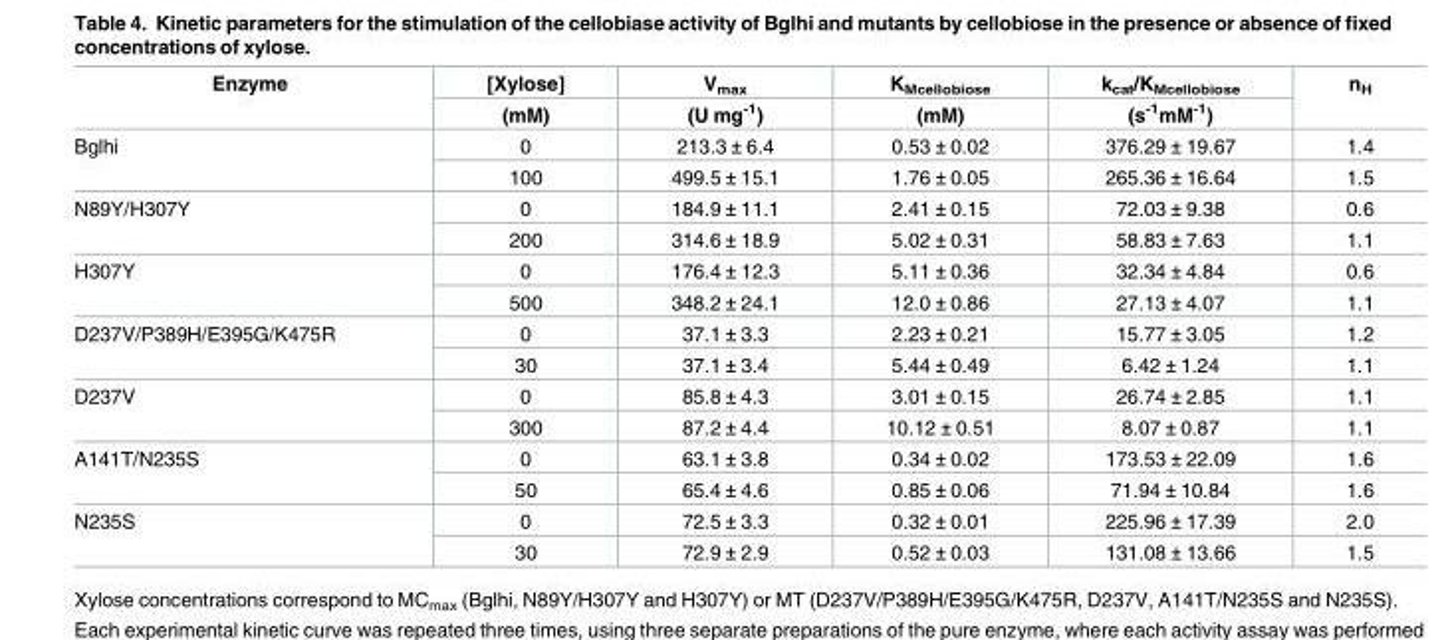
<table><thead><tr><td rowspan="2">Enzyme</td><td rowspan="2">[Xylose] (mM)</td><td rowspan="2">V<sub>max</sub> (U mg<sup>-1</sup>)</td><td rowspan="2">K<sub>Mcellobiose</sub> (mM)</td><td rowspan="2">k<sub>cat</sub>/K<sub>Mcellobiose</sub> (s<sup>-1</sup>mM<sup>-1</sup>)</td><td rowspan="2">n<sub>H</sub></td></tr><tr></tr></thead><tbody><tr><td rowspan="2">Bglhi</td><td>0</td><td>213.3 ± 6.4</td><td>0.53 ± 0.02</td><td>376.29 ± 19.67</td><td>1.4</td></tr><tr><td>100</td><td>499.5 ± 15.1</td><td>1.76 ± 0.05</td><td>265.36 ± 16.64</td><td>1.5</td></tr><tr><td rowspan="2">N89Y/H307Y</td><td>0</td><td>184.9 ± 11.1</td><td>2.41 ± 0.15</td><td>72.03 ± 9.38</td><td>0.6</td></tr><tr><td>200</td><td>314.6 ± 18.9</td><td>5.02 ± 0.31</td><td>58.83 ± 7.63</td><td>1.1</td></tr><tr><td rowspan="2">H307Y</td><td>0</td><td>176.4 ± 12.3</td><td>5.11 ± 0.36</td><td>32.34 ± 4.84</td><td>0.6</td></tr><tr><td>500</td><td>348.2 ± 24.1</td><td>12.0 ± 0.86</td><td>27.13 ± 4.07</td><td>1.1</td></tr><tr><td rowspan="2">D237V/P389H/E395G/K475R</td><td>0</td><td>37.1 ± 3.3</td><td>2.23 ± 0.21</td><td>15.77 ± 3.05</td><td>1.2</td></tr><tr><td>30</td><td>37.1 ± 3.4</td><td>5.44 ± 0.49</td><td>6.42 ± 1.24</td><td>1.1</td></tr><tr><td rowspan="2">D237V</td><td>0</td><td>85.8 ± 4.3</td><td>3.01 ± 0.15</td><td>26.74 ± 2.85</td><td>1.1</td></tr><tr><td>300</td><td>87.2 ± 4.4</td><td>10.12 ± 0.51</td><td>8.07 ± 0.87</td><td>1.1</td></tr><tr><td rowspan="2">A141T/N235S</td><td>0</td><td>63.1 ± 3.8</td><td>0.34 ± 0.02</td><td>173.53 ± 22.09</td><td>1.6</td></tr><tr><td>50</td><td>65.4 ± 4.6</td><td>0.85 ± 0.06</td><td>71.94 ± 10.84</td><td>1.6</td></tr><tr><td rowspan="2">N235S</td><td>0</td><td>72.5 ± 3.3</td><td>0.32 ± 0.01</td><td>225.96 ± 17.39</td><td>2.0</td></tr><tr><td>30</td><td>72.9 ± 2.9</td><td>0.52 ± 0.03</td><td>131.08 ± 13.66</td><td>1.5</td></tr></tbody></table>